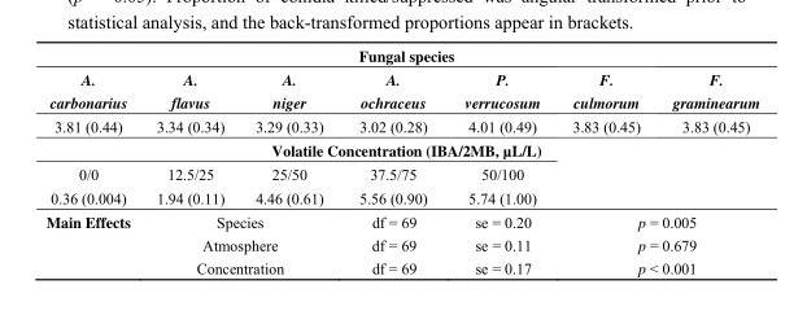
<table><thead><tr><td colspan="7">Fungal species</td></tr><tr><td>A. carbonarius</td><td>A. flavus</td><td>A. niger</td><td>A. ochraceus</td><td>P. verrucosum</td><td>F. culmorum</td><td>F. graminearum</td></tr></thead><tbody><tr><td rowspan="2">3.81 (0.44)</td><td>3.34 (0.34)</td><td>3.29 (0.33)</td><td>3.02 (0.28)</td><td>4.01 (0.49)</td><td>3.83 (0.45)</td><td>3.83 (0.45)</td></tr><tr><td></td><td colspan="3">Volatile Concentration (IBA/2MB, µL/L)</td><td></td><td></td></tr><tr><td>0/0</td><td>12.5/25</td><td>25/50</td><td>37.5/75</td><td>50/100</td><td></td><td></td></tr><tr><td>0.36 (0.004)</td><td>1.94 (0.11)</td><td>4.46 (0.61)</td><td>5.56 (0.90)</td><td>5.74 (1.00)</td><td></td><td></td></tr><tr><td rowspan="3">Main Effects</td><td colspan="2">Species</td><td>df = 69</td><td>se = 0.20</td><td colspan="2">p = 0.005</td></tr><tr><td colspan="2">Atmosphere</td><td>df = 69</td><td>se = 0.11</td><td colspan="2">p = 0.679</td></tr><tr><td colspan="2">Concentration</td><td>df = 69</td><td>se = 0.17</td><td colspan="2">p &lt; 0.001</td></tr></tbody></table>